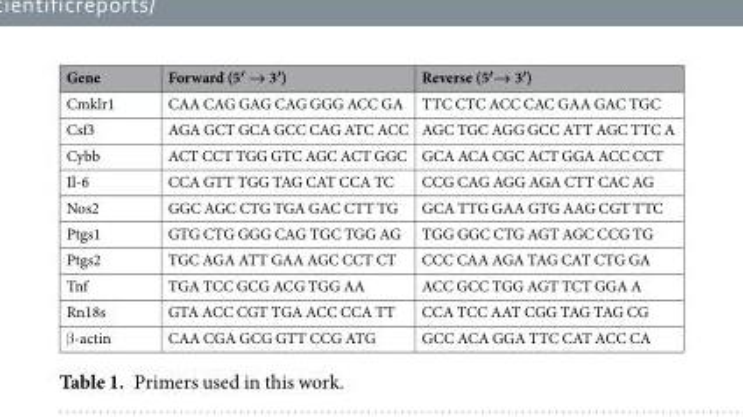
<table><thead><tr><td>Gene</td><td>Forward (5′ → 3′)</td><td>Reverse (5′→ 3′)</td></tr></thead><tbody><tr><td>Cmklr1</td><td>CAA CAG GAG CAG GGG ACC GA</td><td>TTC CTC ACC CAC GAA GAC TGC</td></tr><tr><td>Csf3</td><td>AGA GCT GCA GCC CAG ATC ACC</td><td>AGC TGC AGG GCC ATT AGC TTC A</td></tr><tr><td>Cybb</td><td>ACT CCT TGG GTC AGC ACT GGC</td><td>GCA ACA CGC ACT GGA ACC CCT</td></tr><tr><td>Il-6</td><td>CCA GTT TGG TAG CAT CCA TC</td><td>CCG CAG AGG AGA CTT CAC AG</td></tr><tr><td>Nos2</td><td>GGC AGC CTG TGA GAC CTT TG</td><td>GCA TTG GAA GTG AAG CGT TTC</td></tr><tr><td>Ptgs1</td><td>GTG CTG GGG CAG TGC TGG AG</td><td>TGG GGC CTG AGT AGC CCG TG</td></tr><tr><td>Ptgs2</td><td>TGC AGA ATT GAA AGC CCT CT</td><td>CCC CAA AGA TAG CAT CTG GA</td></tr><tr><td>Tnf</td><td>TGA TCC GCG ACG TGG AA</td><td>ACC GCC TGG AGT TCT GGA A</td></tr><tr><td>Rn18s</td><td>GTA ACC CGT TGA ACC CCA TT</td><td>CCA TCC AAT CGG TAG TAG CG</td></tr><tr><td>β-actin</td><td>CAA CGA GCG GTT CCG ATG</td><td>GCC ACA GGA TTC CAT ACC CA</td></tr></tbody></table>